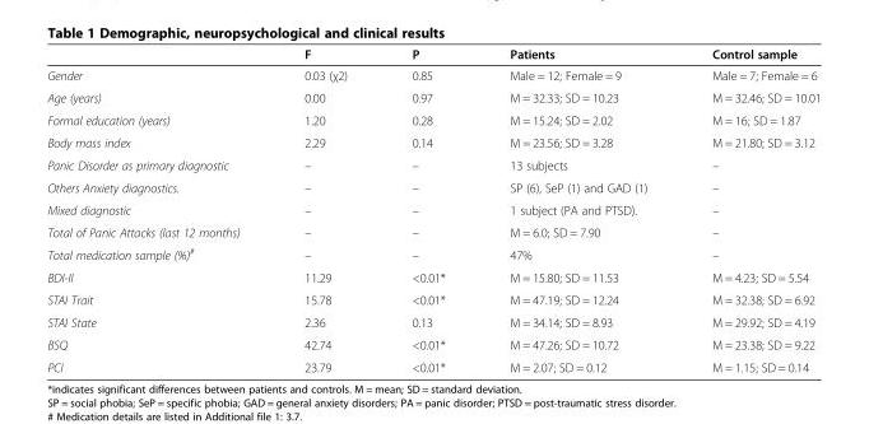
<table><thead><tr><td></td><td>F</td><td>P</td><td>Patients</td><td>Control sample</td></tr></thead><tbody><tr><td>Gender</td><td>0.03 (χ2)</td><td>0.85</td><td>Male = 12; Female = 9</td><td>Male = 7; Female = 6</td></tr><tr><td>Age (years)</td><td>0.00</td><td>0.97</td><td>M = 32.33; SD = 10.23</td><td>M = 32.46; SD = 10.01</td></tr><tr><td>Formal education (years)</td><td>1.20</td><td>0.28</td><td>M = 15.24; SD = 2.02</td><td>M = 16; SD = 1.87</td></tr><tr><td>Body mass index</td><td>2.29</td><td>0.14</td><td>M = 23.56; SD = 3.28</td><td>M = 21.80; SD = 3.12</td></tr><tr><td>Panic Disorder as primary diagnostic</td><td>–</td><td>–</td><td>13 subjects</td><td>–</td></tr><tr><td>Others Anxiety diagnostics.</td><td>–</td><td>–</td><td>SP (6), SeP (1) and GAD (1)</td><td>–</td></tr><tr><td>Mixed diagnostic</td><td>–</td><td>–</td><td>1 subject (PA and PTSD).</td><td>–</td></tr><tr><td>Total of Panic Attacks (last 12 months)</td><td>–</td><td>–</td><td>M = 6.0; SD = 7.90</td><td>–</td></tr><tr><td>Total medication sample (%)<sup>#</sup></td><td>–</td><td>–</td><td>47%</td><td>–</td></tr><tr><td>BDI-II</td><td>11.29</td><td>&lt;0.01*</td><td>M = 15.80; SD = 11.53</td><td>M = 4.23; SD = 5.54</td></tr><tr><td>STAI Trait</td><td>15.78</td><td>&lt;0.01*</td><td>M = 47.19; SD = 12.24</td><td>M = 32.38; SD = 6.92</td></tr><tr><td>STAI State</td><td>2.36</td><td>0.13</td><td>M = 34.14; SD = 8.93</td><td>M = 29.92; SD = 4.19</td></tr><tr><td>BSQ</td><td>42.74</td><td>&lt;0.01*</td><td>M = 47.26; SD = 10.72</td><td>M = 23.38; SD = 9.22</td></tr><tr><td>PCI</td><td>23.79</td><td>&lt;0.01*</td><td>M = 2.07; SD = 0.12</td><td>M = 1.15; SD = 0.14</td></tr></tbody></table>